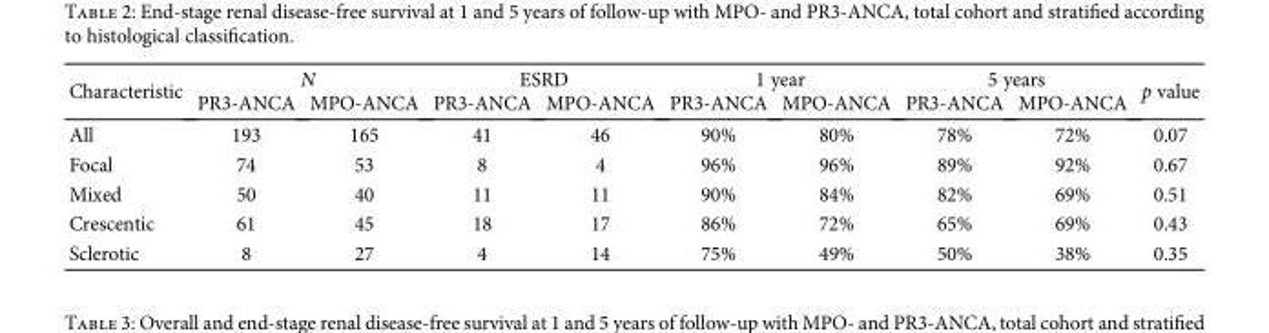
<table><thead><tr><td rowspan="2">Characteristic</td><td colspan="2">N</td><td colspan="2">ESRD</td><td colspan="2">1 year</td><td colspan="2">5 years</td><td rowspan="2">p value</td></tr><tr><td>PR3-ANCA</td><td>MPO-ANCA</td><td>PR3-ANCA</td><td>MPO-ANCA</td><td>PR3-ANCA</td><td>MPO-ANCA</td><td>PR3-ANCA</td><td>MPO-ANCA</td></tr></thead><tbody><tr><td>All</td><td>193</td><td>165</td><td>41</td><td>46</td><td>90%</td><td>80%</td><td>78%</td><td>72%</td><td>0.07</td></tr><tr><td>Focal</td><td>74</td><td>53</td><td>8</td><td>4</td><td>96%</td><td>96%</td><td>89%</td><td>92%</td><td>0.67</td></tr><tr><td>Mixed</td><td>50</td><td>40</td><td>11</td><td>11</td><td>90%</td><td>84%</td><td>82%</td><td>69%</td><td>0.51</td></tr><tr><td>Crescentic</td><td>61</td><td>45</td><td>18</td><td>17</td><td>86%</td><td>72%</td><td>65%</td><td>69%</td><td>0.43</td></tr><tr><td>Sclerotic</td><td>8</td><td>27</td><td>4</td><td>14</td><td>75%</td><td>49%</td><td>50%</td><td>38%</td><td>0.35</td></tr></tbody></table>